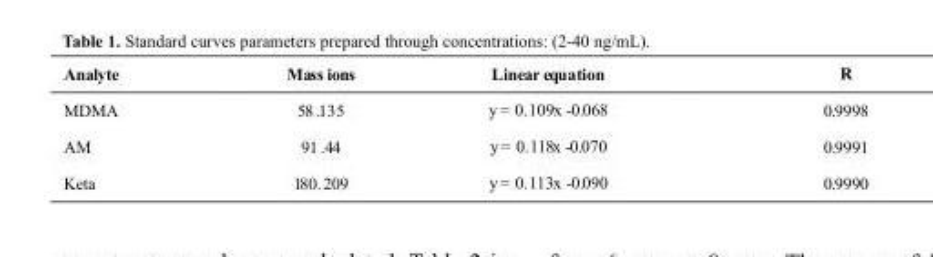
<table><thead><tr><td>Analyte</td><td>Mass ions</td><td>Linear equation</td><td>R</td></tr></thead><tbody><tr><td>MDMA</td><td>58 . 135</td><td>y = 0.109x -0.068</td><td>0.9998</td></tr><tr><td>AM</td><td>91 .44</td><td>y = 0.118x -0.070</td><td>0.9991</td></tr><tr><td>Keta</td><td>180. 209</td><td>y = 0.113x -0.090</td><td>0.9990</td></tr></tbody></table>